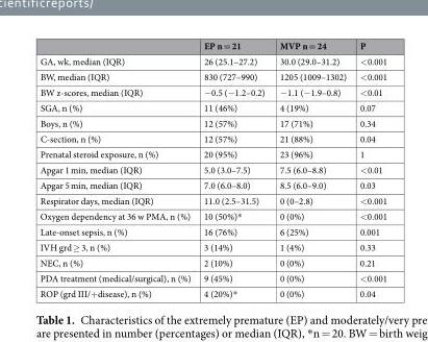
<table><thead><tr><td></td><td>EP n = 21</td><td>MVP n = 24</td><td>P</td></tr></thead><tbody><tr><td>GA, wk, median (IQR)</td><td>26 (25.1–27.2)</td><td>30.0 (29.0–31.2)</td><td>&lt;0.001</td></tr><tr><td>BW, median (IQR)</td><td>830 (727–990)</td><td>1205 (1009–1302)</td><td>&lt;0.001</td></tr><tr><td>BW z-scores, median (IQR)</td><td>−0.5 (−1.2–0.2)</td><td>−1.1 (−1.9–0.8)</td><td>&lt;0.01</td></tr><tr><td>SGA, n (%)</td><td>11 (46%)</td><td>4 (19%)</td><td>0.07</td></tr><tr><td>Boys, n (%)</td><td>12 (57%)</td><td>17 (71%)</td><td>0.34</td></tr><tr><td>C-section, n (%)</td><td>12 (57%)</td><td>21 (88%)</td><td>0.04</td></tr><tr><td>Prenatal steroid exposure, n (%)</td><td>20 (95%)</td><td>23 (96%)</td><td>1</td></tr><tr><td>Apgar 1 min, median (IQR)</td><td>5.0 (3.0–7.5)</td><td>7.5 (6.0–8.8)</td><td>&lt;0.01</td></tr><tr><td>Apgar 5 min, median (IQR)</td><td>7.0 (6.0–8.0)</td><td>8.5 (6.0–9.0)</td><td>0.03</td></tr><tr><td>Respirator days, median (IQR)</td><td>11.0 (2.5–31.5)</td><td>0 (0–2.8)</td><td>&lt;0.001</td></tr><tr><td>Oxygen dependency at 36 w PMA, n (%)</td><td>10 (50%)*</td><td>0 (0%)</td><td>&lt;0.001</td></tr><tr><td>Late-onset sepsis, n (%)</td><td>16 (76%)</td><td>6 (25%)</td><td>0.001</td></tr><tr><td>IVH grd ≥ 3, n (%)</td><td>3 (14%)</td><td>1 (4%)</td><td>0.33</td></tr><tr><td>NEC, n (%)</td><td>2 (10%)</td><td>0 (0%)</td><td>0.21</td></tr><tr><td>PDA treatment (medical/surgical), n (%)</td><td>9 (45%)</td><td>0 (0%)</td><td>&lt;0.001</td></tr><tr><td>ROP (grd III/+disease), n (%)</td><td>4 (20%)*</td><td>0 (0%)</td><td>0.04</td></tr></tbody></table>